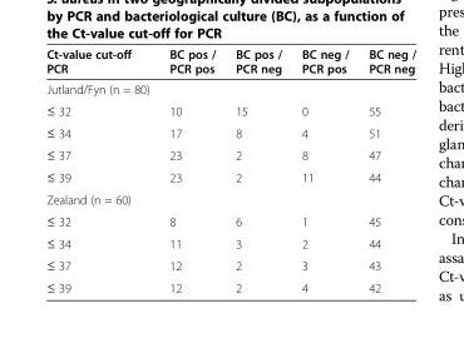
<table><thead><tr><td>Ct-value cut-off PCR</td><td>BC pos / PCR pos</td><td>BC pos / PCR neg</td><td>BC neg / PCR pos</td><td>BC neg / PCR neg</td></tr></thead><tbody><tr><td colspan="5">Jutland/Fyn (n = 80)</td></tr><tr><td>≤ 32</td><td>10</td><td>15</td><td>0</td><td>55</td></tr><tr><td>≤ 34</td><td>17</td><td>8</td><td>4</td><td>51</td></tr><tr><td>≤ 37</td><td>23</td><td>2</td><td>8</td><td>47</td></tr><tr><td>≤ 39</td><td>23</td><td>2</td><td>11</td><td>44</td></tr><tr><td colspan="5">Zealand (n = 60)</td></tr><tr><td>≤ 32</td><td>8</td><td>6</td><td>1</td><td>45</td></tr><tr><td>≤ 34</td><td>11</td><td>3</td><td>2</td><td>44</td></tr><tr><td>≤ 37</td><td>12</td><td>2</td><td>3</td><td>43</td></tr><tr><td>≤ 39</td><td>12</td><td>2</td><td>4</td><td>42</td></tr></tbody></table>